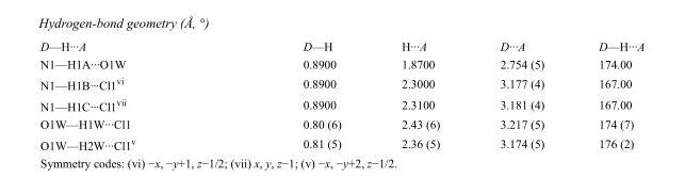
<table><tbody><tr><td>D—H···A</td><td>D—H</td><td>H···A</td><td>D···A</td><td>D—H···A</td></tr><tr><td>N1—H1A···O1W</td><td>0.8900</td><td>1.8700</td><td>2.754 (5)</td><td>174.00</td></tr><tr><td>N1—H1B···Cl1<sup>vi</sup></td><td>0.8900</td><td>2.3000</td><td>3.177 (4)</td><td>167.00</td></tr><tr><td>N1—H1C···Cl1<sup>vii</sup></td><td>0.8900</td><td>2.3100</td><td>3.181 (4)</td><td>167.00</td></tr><tr><td>O1W—H1W···Cl1</td><td>0.80 (6)</td><td>2.43 (6)</td><td>3.217 (5)</td><td>174 (7)</td></tr><tr><td>O1W—H2W···Cl1<sup>v</sup></td><td>0.81 (5)</td><td>2.36 (5)</td><td>3.174 (5)</td><td>176 (2)</td></tr></tbody></table>